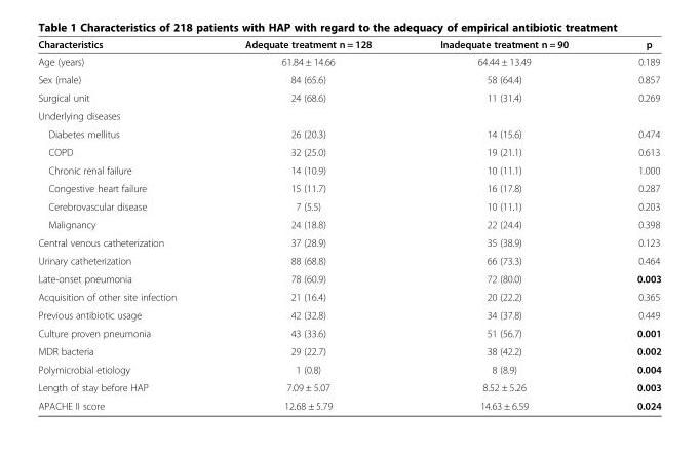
<table><thead><tr><td>Characteristics</td><td>Adequate treatment n = 128</td><td>Inadequate treatment n = 90</td><td>p</td></tr></thead><tbody><tr><td>Age (years)</td><td>61.84 ± 14.66</td><td>64.44 ± 13.49</td><td>0.189</td></tr><tr><td>Sex (male)</td><td>84 (65.6)</td><td>58 (64.4)</td><td>0.857</td></tr><tr><td>Surgical unit</td><td>24 (68.6)</td><td>11 (31.4)</td><td>0.269</td></tr><tr><td colspan="4">Underlying diseases</td></tr><tr><td>Diabetes mellitus</td><td>26 (20.3)</td><td>14 (15.6)</td><td>0.474</td></tr><tr><td>COPD</td><td>32 (25.0)</td><td>19 (21.1)</td><td>0.613</td></tr><tr><td>Chronic renal failure</td><td>14 (10.9)</td><td>10 (11.1)</td><td>1.000</td></tr><tr><td>Congestive heart failure</td><td>15 (11.7)</td><td>16 (17.8)</td><td>0.287</td></tr><tr><td>Cerebrovascular disease</td><td>7 (5.5)</td><td>10 (11.1)</td><td>0.203</td></tr><tr><td>Malignancy</td><td>24 (18.8)</td><td>22 (24.4)</td><td>0.398</td></tr><tr><td>Central venous catheterization</td><td>37 (28.9)</td><td>35 (38.9)</td><td>0.123</td></tr><tr><td>Urinary catheterization</td><td>88 (68.8)</td><td>66 (73.3)</td><td>0.464</td></tr><tr><td>Late-onset pneumonia</td><td>78 (60.9)</td><td>72 (80.0)</td><td>0.003</td></tr><tr><td>Acquisition of other site infection</td><td>21 (16.4)</td><td>20 (22.2)</td><td>0.365</td></tr><tr><td>Previous antibiotic usage</td><td>42 (32.8)</td><td>34 (37.8)</td><td>0.449</td></tr><tr><td>Culture proven pneumonia</td><td>43 (33.6)</td><td>51 (56.7)</td><td>0.001</td></tr><tr><td>MDR bacteria</td><td>29 (22.7)</td><td>38 (42.2)</td><td>0.002</td></tr><tr><td>Polymicrobial etiology</td><td>1 (0.8)</td><td>8 (8.9)</td><td>0.004</td></tr><tr><td>Length of stay before HAP</td><td>7.09 ± 5.07</td><td>8.52 ± 5.26</td><td>0.003</td></tr><tr><td>APACHE II score</td><td>12.68 ± 5.79</td><td>14.63 ± 6.59</td><td>0.024</td></tr></tbody></table>